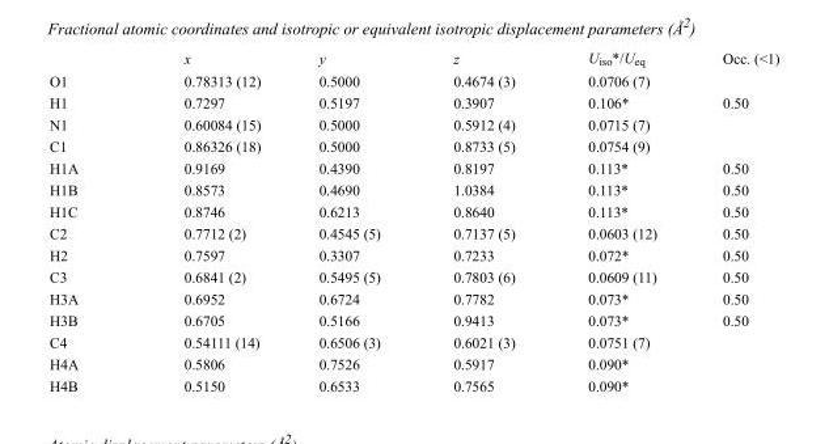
<table><thead><tr><td></td><td>x</td><td>y</td><td>z</td><td>U<sub>iso</sub>*/U<sub>eq</sub></td><td>Occ. (&lt;1)</td></tr></thead><tbody><tr><td>O1</td><td>0.78313 (12)</td><td>0.5000</td><td>0.4674 (3)</td><td>0.0706 (7)</td><td></td></tr><tr><td>H1</td><td>0.7297</td><td>0.5197</td><td>0.3907</td><td>0.106*</td><td>0.50</td></tr><tr><td>N1</td><td>0.60084 (15)</td><td>0.5000</td><td>0.5912 (4)</td><td>0.0715 (7)</td><td></td></tr><tr><td>C1</td><td>0.86326 (18)</td><td>0.5000</td><td>0.8733 (5)</td><td>0.0754 (9)</td><td></td></tr><tr><td>H1A</td><td>0.9169</td><td>0.4390</td><td>0.8197</td><td>0.113*</td><td>0.50</td></tr><tr><td>H1B</td><td>0.8573</td><td>0.4690</td><td>1.0384</td><td>0.113*</td><td>0.50</td></tr><tr><td>H1C</td><td>0.8746</td><td>0.6213</td><td>0.8640</td><td>0.113*</td><td>0.50</td></tr><tr><td>C2</td><td>0.7712 (2)</td><td>0.4545 (5)</td><td>0.7137 (5)</td><td>0.0603 (12)</td><td>0.50</td></tr><tr><td>H2</td><td>0.7597</td><td>0.3307</td><td>0.7233</td><td>0.072*</td><td>0.50</td></tr><tr><td>C3</td><td>0.6841 (2)</td><td>0.5495 (5)</td><td>0.7803 (6)</td><td>0.0609 (11)</td><td>0.50</td></tr><tr><td>H3A</td><td>0.6952</td><td>0.6724</td><td>0.7782</td><td>0.073*</td><td>0.50</td></tr><tr><td>H3B</td><td>0.6705</td><td>0.5166</td><td>0.9413</td><td>0.073*</td><td>0.50</td></tr><tr><td>C4</td><td>0.54111 (14)</td><td>0.6506 (3)</td><td>0.6021 (3)</td><td>0.0751 (7)</td><td></td></tr><tr><td>H4A</td><td>0.5806</td><td>0.7526</td><td>0.5917</td><td>0.090*</td><td></td></tr><tr><td>H4B</td><td>0.5150</td><td>0.6533</td><td>0.7565</td><td>0.090*</td><td></td></tr></tbody></table>